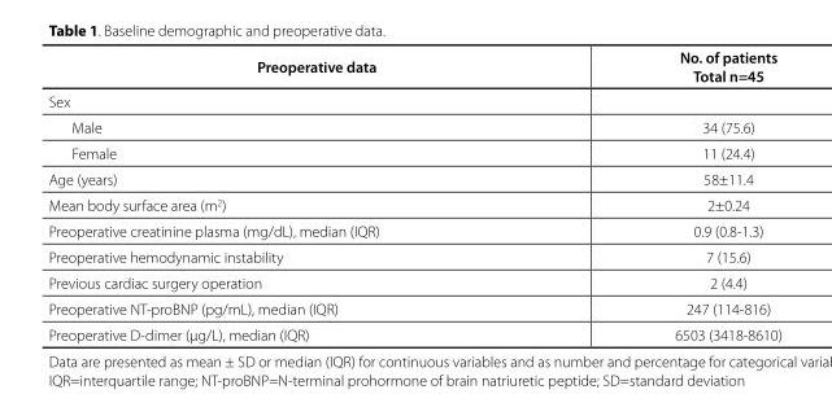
<table><thead><tr><td>Preoperative data</td><td>No. of patients Total n=45</td></tr></thead><tbody><tr><td colspan="2">Sex</td></tr><tr><td>Male</td><td>34 (75.6)</td></tr><tr><td>Female</td><td>11 (24.4)</td></tr><tr><td>Age (years)</td><td>58±11.4</td></tr><tr><td>Mean body surface area (m<sup>2</sup>)</td><td>2±0.24</td></tr><tr><td>Preoperative creatinine plasma (mg/dL), median (IQR)</td><td>0.9 (0.8-1.3)</td></tr><tr><td>Preoperative hemodynamic instability</td><td>7 (15.6)</td></tr><tr><td>Previous cardiac surgery operation</td><td>2 (4.4)</td></tr><tr><td>Preoperative NT-proBNP (pg/mL), median (IQR)</td><td>247 (114-816)</td></tr><tr><td>Preoperative D-dimer (µg/L), median (IQR)</td><td>6503 (3418-8610)</td></tr></tbody></table>